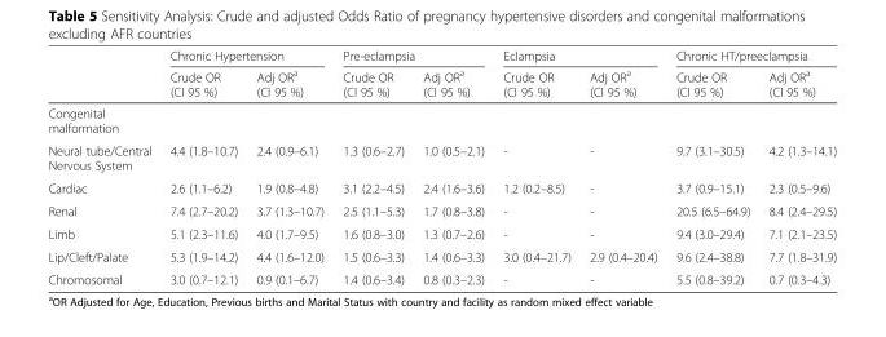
<table><thead><tr><td rowspan="2"></td><td colspan="2">Chronic Hypertension</td><td colspan="2">Pre-eclampsia</td><td colspan="2">Eclampsia</td><td colspan="2">Chronic HT/preeclampsia</td></tr><tr><td>Crude OR (CI 95 %)</td><td>Adj OR<sup>a</sup> (CI 95 %)</td><td>Crude OR (CI 95 %)</td><td>Adj OR<sup>a</sup> (CI 95 %)</td><td>Crude OR (CI 95 %)</td><td>Adj OR<sup>a</sup> (CI 95 %)</td><td>Crude OR (CI 95 %)</td><td>Adj OR<sup>a</sup> (CI 95 %)</td></tr></thead><tbody><tr><td colspan="9">Congenital malformation</td></tr><tr><td>Neural tube/Central Nervous System</td><td>4.4 (1.8–10.7)</td><td>2.4 (0.9–6.1)</td><td>1.3 (0.6–2.7)</td><td>1.0 (0.5–2.1)</td><td>-</td><td>-</td><td>9.7 (3.1–30.5)</td><td>4.2 (1.3–14.1)</td></tr><tr><td>Cardiac</td><td>2.6 (1.1–6.2)</td><td>1.9 (0.8–4.8)</td><td>3.1 (2.2–4.5)</td><td>2.4 (1.6–3.6)</td><td>1.2 (0.2–8.5)</td><td>-</td><td>3.7 (0.9–15.1)</td><td>2.3 (0.5–9.6)</td></tr><tr><td>Renal</td><td>7.4 (2.7–20.2)</td><td>3.7 (1.3–10.7)</td><td>2.5 (1.1–5.3)</td><td>1.7 (0.8–3.8)</td><td>-</td><td>-</td><td>20.5 (6.5–64.9)</td><td>8.4 (2.4–29.5)</td></tr><tr><td>Limb</td><td>5.1 (2.3–11.6)</td><td>4.0 (1.7–9.5)</td><td>1.6 (0.8–3.0)</td><td>1.3 (0.7–2.6)</td><td>-</td><td>-</td><td>9.4 (3.0–29.4)</td><td>7.1 (2.1–23.5)</td></tr><tr><td>Lip/Cleft/Palate</td><td>5.3 (1.9–14.2)</td><td>4.4 (1.6–12.0)</td><td>1.5 (0.6–3.3)</td><td>1.4 (0.6–3.3)</td><td>3.0 (0.4–21.7)</td><td>2.9 (0.4–20.4)</td><td>9.6 (2.4–38.8)</td><td>7.7 (1.8–31.9)</td></tr><tr><td>Chromosomal</td><td>3.0 (0.7–12.1)</td><td>0.9 (0.1–6.7)</td><td>1.4 (0.6–3.4)</td><td>0.8 (0.3–2.3)</td><td>-</td><td>-</td><td>5.5 (0.8–39.2)</td><td>0.7 (0.3–4.3)</td></tr></tbody></table>